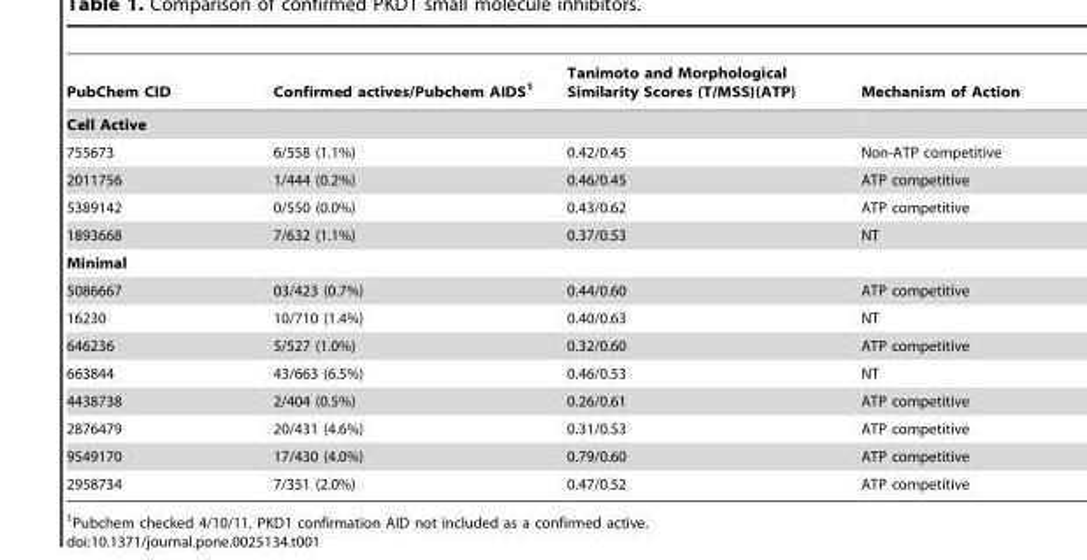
<table><thead><tr><td>PubChem CID</td><td>Confirmed actives/Pubchem AIDS<sup>1</sup></td><td>Tanimoto and Morphological Similarity Scores (T/MSS)(ATP)</td><td>Mechanism of Action</td></tr></thead><tbody><tr><td colspan="4">Cell Active</td></tr><tr><td>755673</td><td>6/558 (1.1%)</td><td>0.42/0.45</td><td>Non-ATP competitive</td></tr><tr><td>2011756</td><td>1/444 (0.2%)</td><td>0.46/0.45</td><td>ATP competitive</td></tr><tr><td>5389142</td><td>0/550 (0.0%)</td><td>0.43/0.62</td><td>ATP competitive</td></tr><tr><td>1893668</td><td>7/632 (1.1%)</td><td>0.37/0.53</td><td>NT</td></tr><tr><td colspan="4">Minimal</td></tr><tr><td>5086667</td><td>03/423 (0.7%)</td><td>0.44/0.60</td><td>ATP competitive</td></tr><tr><td>16230</td><td>10/710 (1.4%)</td><td>0.40/0.63</td><td>NT</td></tr><tr><td>646236</td><td>5/527 (1.0%)</td><td>0.32/0.60</td><td>ATP competitive</td></tr><tr><td>663844</td><td>43/663 (6.5%)</td><td>0.46/0.53</td><td>NT</td></tr><tr><td>4438738</td><td>2/404 (0.5%)</td><td>0.26/0.61</td><td>ATP competitive</td></tr><tr><td>2876479</td><td>20/431 (4.6%)</td><td>0.31/0.53</td><td>ATP competitive</td></tr><tr><td>9549170</td><td>17/430 (4.0%)</td><td>0.79/0.60</td><td>ATP competitive</td></tr><tr><td>2958734</td><td>7/351 (2.0%)</td><td>0.47/0.52</td><td>ATP competitive</td></tr></tbody></table>